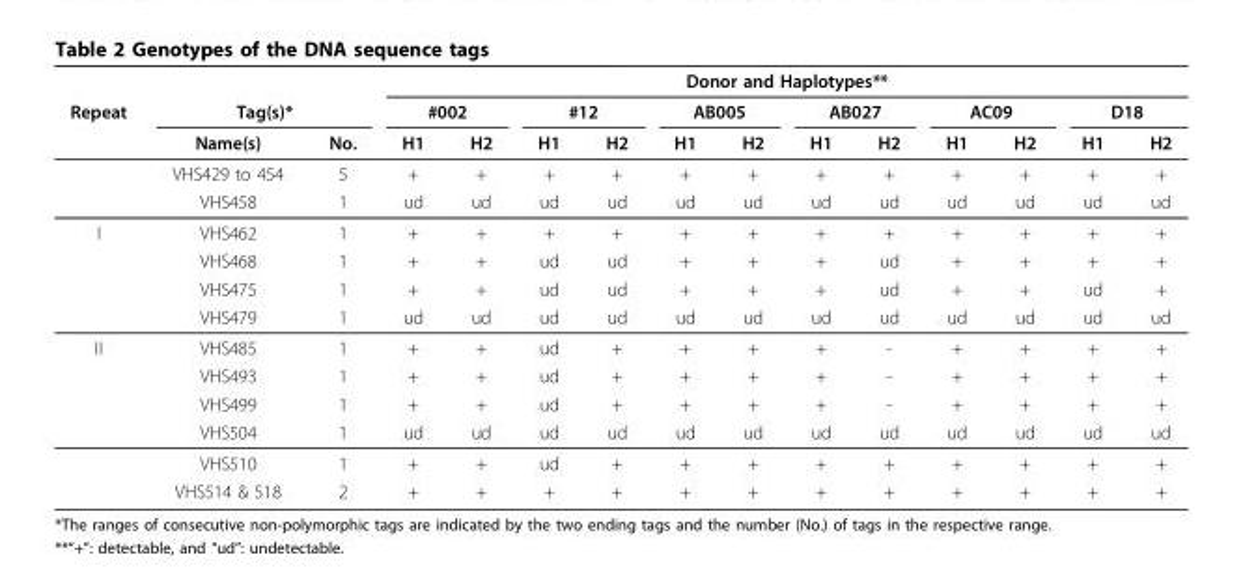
<table><thead><tr><td rowspan="3">Repeat</td><td></td><td></td><td colspan="12">Donor and Haplotypes**</td></tr><tr><td colspan="2">Tag(s)*</td><td colspan="2">#002</td><td colspan="2">#12</td><td colspan="2">AB005</td><td colspan="2">AB027</td><td colspan="2">AC09</td><td colspan="2">D18</td></tr><tr><td>Name(s)</td><td>No.</td><td>H1</td><td>H2</td><td>H1</td><td>H2</td><td>H1</td><td>H2</td><td>H1</td><td>H2</td><td>H1</td><td>H2</td><td>H1</td><td>H2</td></tr></thead><tbody><tr><td></td><td>VHS429 to 454</td><td>5</td><td>+</td><td>+</td><td>+</td><td>+</td><td>+</td><td>+</td><td>+</td><td>+</td><td>+</td><td>+</td><td>+</td><td>+</td></tr><tr><td></td><td>VHS458</td><td>1</td><td>ud</td><td>ud</td><td>ud</td><td>ud</td><td>ud</td><td>ud</td><td>ud</td><td>ud</td><td>ud</td><td>ud</td><td>ud</td><td>ud</td></tr><tr><td rowspan="4">I</td><td>VHS462</td><td>1</td><td>+</td><td>+</td><td>+</td><td>+</td><td>+</td><td>+</td><td>+</td><td>+</td><td>+</td><td>+</td><td>+</td><td>+</td></tr><tr><td>VHS468</td><td>1</td><td>+</td><td>+</td><td>ud</td><td>ud</td><td>+</td><td>+</td><td>+</td><td>ud</td><td>+</td><td>+</td><td>+</td><td>+</td></tr><tr><td>VHS475</td><td>1</td><td>+</td><td>+</td><td>ud</td><td>ud</td><td>+</td><td>+</td><td>+</td><td>ud</td><td>+</td><td>+</td><td>ud</td><td>+</td></tr><tr><td>VHS479</td><td>1</td><td>ud</td><td>ud</td><td>ud</td><td>ud</td><td>ud</td><td>ud</td><td>ud</td><td>ud</td><td>ud</td><td>ud</td><td>ud</td><td>ud</td></tr><tr><td rowspan="6">II</td><td>VHS485</td><td>1</td><td>+</td><td>+</td><td>ud</td><td>+</td><td>+</td><td>+</td><td>+</td><td>-</td><td>+</td><td>+</td><td>+</td><td>+</td></tr><tr><td>VHS493</td><td>1</td><td>+</td><td>+</td><td>ud</td><td>+</td><td>+</td><td>+</td><td>+</td><td>-</td><td>+</td><td>+</td><td>+</td><td>+</td></tr><tr><td>VHS499</td><td>1</td><td>+</td><td>+</td><td>ud</td><td>+</td><td>+</td><td>+</td><td>+</td><td>-</td><td>+</td><td>+</td><td>+</td><td>+</td></tr><tr><td>VHS504</td><td>1</td><td>ud</td><td>ud</td><td>ud</td><td>ud</td><td>ud</td><td>ud</td><td>ud</td><td>ud</td><td>ud</td><td>ud</td><td>ud</td><td>ud</td></tr><tr><td>VHS510</td><td>1</td><td>+</td><td>+</td><td>ud</td><td>+</td><td>+</td><td>+</td><td>+</td><td>+</td><td>+</td><td>+</td><td>+</td><td>+</td></tr><tr><td>VHS514 &amp; 518</td><td>2</td><td>+</td><td>+</td><td>+</td><td>+</td><td>+</td><td>+</td><td>+</td><td>+</td><td>+</td><td>+</td><td>+</td><td>+</td></tr></tbody></table>